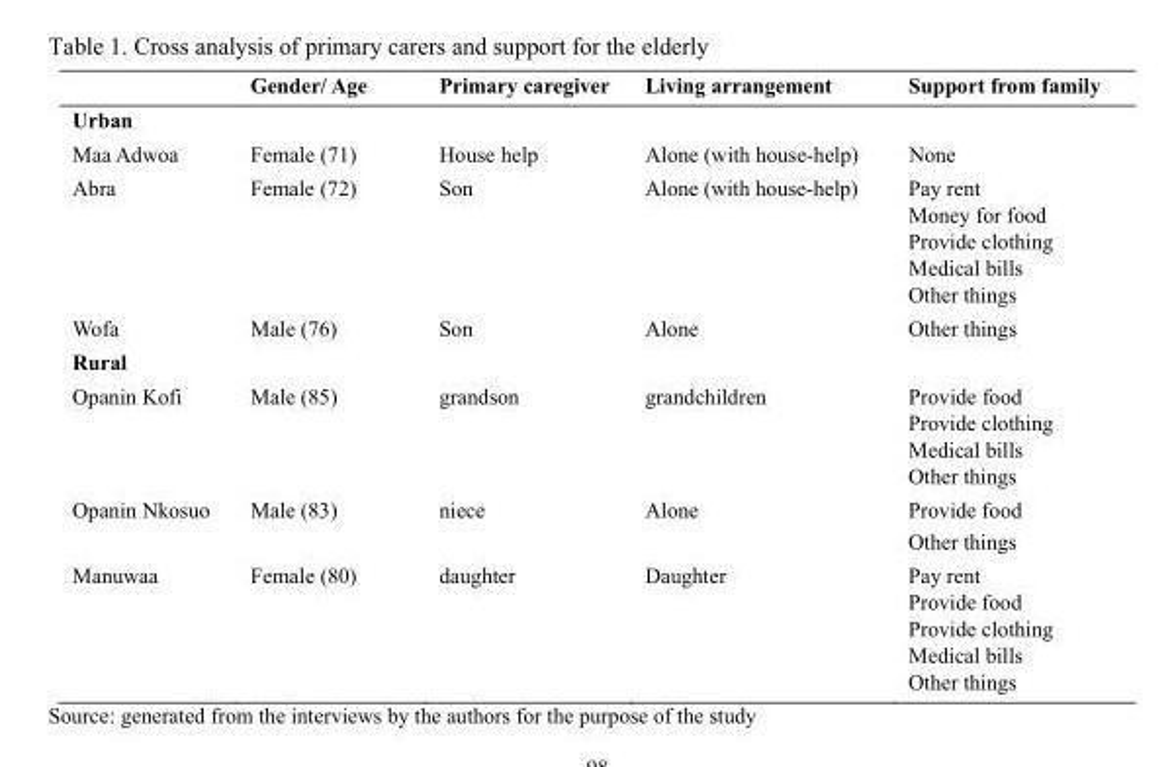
<table><thead><tr><td></td><td>Gender/ Age</td><td>Primary caregiver</td><td>Living arrangement</td><td>Support from family</td></tr></thead><tbody><tr><td colspan="5">Urban</td></tr><tr><td>Maa Adwoa</td><td>Female (71)</td><td>House help</td><td>Alone (with house-help)</td><td>None</td></tr><tr><td rowspan="5">Abra</td><td>Female (72)</td><td>Son</td><td>Alone (with house-help)</td><td>Pay rent</td></tr><tr><td></td><td></td><td></td><td>Money for food</td></tr><tr><td></td><td></td><td></td><td>Provide clothing</td></tr><tr><td></td><td></td><td></td><td>Medical bills</td></tr><tr><td></td><td></td><td></td><td>Other things</td></tr><tr><td>Wofa</td><td>Male (76)</td><td>Son</td><td>Alone</td><td>Other things</td></tr><tr><td colspan="5">Rural</td></tr><tr><td rowspan="4">Opanin Kofi</td><td>Male (85)</td><td>grandson</td><td>grandchildren</td><td>Provide food</td></tr><tr><td></td><td></td><td></td><td>Provide clothing</td></tr><tr><td></td><td></td><td></td><td>Medical bills</td></tr><tr><td></td><td></td><td></td><td>Other things</td></tr><tr><td rowspan="2">Opanin Nkosuo</td><td>Male (83)</td><td>niece</td><td>Alone</td><td>Provide food</td></tr><tr><td></td><td></td><td></td><td>Other things</td></tr><tr><td rowspan="5">Manuwaa</td><td>Female (80)</td><td>daughter</td><td>Daughter</td><td>Pay rent</td></tr><tr><td></td><td></td><td></td><td>Provide food</td></tr><tr><td></td><td></td><td></td><td>Provide clothing</td></tr><tr><td></td><td></td><td></td><td>Medical bills</td></tr><tr><td></td><td></td><td></td><td>Other things</td></tr></tbody></table>